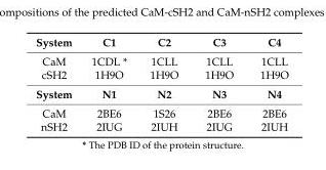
<table><tbody><tr><td>System</td><td>C1</td><td>C2</td><td>C3</td><td>C4</td></tr><tr><td>CaM</td><td>1CDL *</td><td>1CLL</td><td>1CLL</td><td>1CLL</td></tr><tr><td>cSH2</td><td>1H9O</td><td>1H9O</td><td>1H9O</td><td>1H9O</td></tr><tr><td>System</td><td>N1</td><td>N2</td><td>N3</td><td>N4</td></tr><tr><td>CaM</td><td>2BE6</td><td>1S26</td><td>2BE6</td><td>2BE6</td></tr><tr><td>nSH2</td><td>2IUG</td><td>2IUH</td><td>2IUG</td><td>2IUH</td></tr></tbody></table>